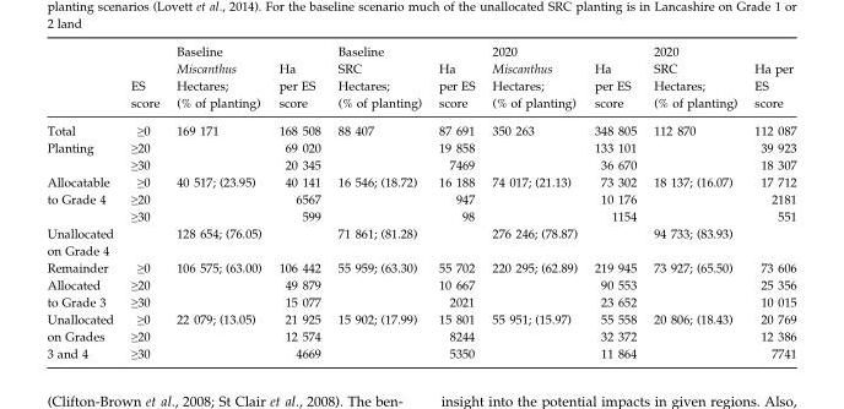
<table><thead><tr><td></td><td>ES score</td><td>Baseline Miscanthus Hectares; (% of planting)</td><td>Ha per ES score</td><td>Baseline SRC Hectares; (% of planting)</td><td>Ha per ES score</td><td>2020 Miscanthus Hectares; (% of planting)</td><td>Ha per ES score</td><td>2020 SRC Hectares; (% of planting)</td><td>Ha per ES score</td></tr></thead><tbody><tr><td rowspan="3">Total Planting</td><td>≥0</td><td>169 171</td><td>168 508</td><td>88 407</td><td>87 691</td><td>350 263</td><td>348 805</td><td>112 870</td><td>112 087</td></tr><tr><td>≥20</td><td></td><td>69 020</td><td></td><td>19 858</td><td></td><td>133 101</td><td></td><td>39 923</td></tr><tr><td>≥30</td><td></td><td>20 345</td><td></td><td>7469</td><td></td><td>36 670</td><td></td><td>18 307</td></tr><tr><td rowspan="3">Allocatable to Grade 4</td><td>≥0</td><td>40 517; (23.95)</td><td>40 141</td><td>16 546; (18.72)</td><td>16 188</td><td>74 017; (21.13)</td><td>73 302</td><td>18 137; (16.07)</td><td>17 712</td></tr><tr><td>≥20</td><td></td><td>6567</td><td></td><td>947</td><td></td><td>10 176</td><td></td><td>2181</td></tr><tr><td>≥30</td><td></td><td>599</td><td></td><td>98</td><td></td><td>1154</td><td></td><td>551</td></tr><tr><td>Unallocated on Grade 4</td><td></td><td>128 654; (76.05)</td><td></td><td>71 861; (81.28)</td><td></td><td>276 246; (78.87)</td><td></td><td>94 733; (83.93)</td><td></td></tr><tr><td rowspan="3">Remainder Allocated to Grade 3</td><td>≥0</td><td>106 575; (63.00)</td><td>106 442</td><td>55 959; (63.30)</td><td>55 702</td><td>220 295; (62.89)</td><td>219 945</td><td>73 927; (65.50)</td><td>73 606</td></tr><tr><td>≥20</td><td></td><td>49 879</td><td></td><td>10 667</td><td></td><td>90 553</td><td></td><td>25 356</td></tr><tr><td>≥30</td><td></td><td>15 077</td><td></td><td>2021</td><td></td><td>23 652</td><td></td><td>10 015</td></tr><tr><td rowspan="3">Unallocated on Grades 3 and 4</td><td>≥0</td><td>22 079; (13.05)</td><td>21 925</td><td>15 902; (17.99)</td><td>15 801</td><td>55 951; (15.97)</td><td>55 558</td><td>20 806; (18.43)</td><td>20 769</td></tr><tr><td>≥20</td><td></td><td>12 574</td><td></td><td>8244</td><td></td><td>32 372</td><td></td><td>12 386</td></tr><tr><td>≥30</td><td></td><td>4669</td><td></td><td>5350</td><td></td><td>11 864</td><td></td><td>7741</td></tr></tbody></table>